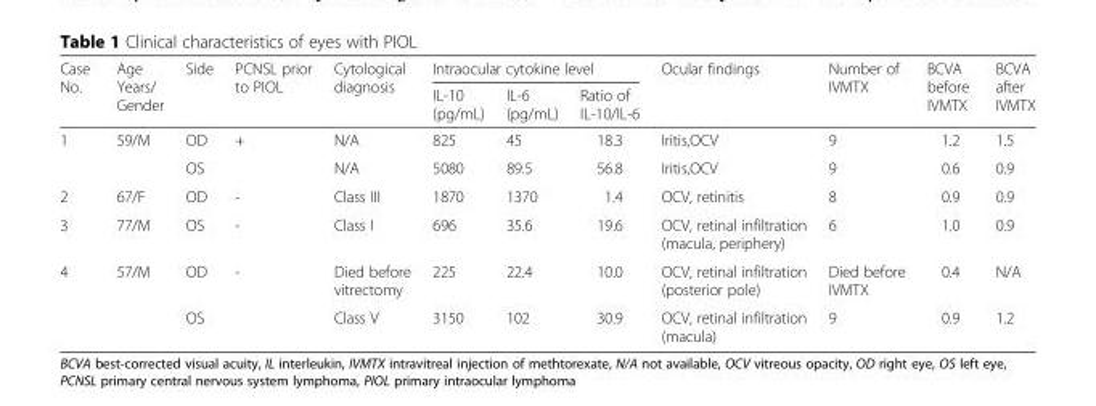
<table><thead><tr><td rowspan="2">Case No.</td><td rowspan="2">Age Years/ Gender</td><td rowspan="2">Side</td><td rowspan="2">PCNSL prior to PIOL</td><td rowspan="2">Cytological diagnosis</td><td colspan="3">Intraocular cytokine level</td><td rowspan="2">Ocular findings</td><td rowspan="2">Number of IVMTX</td><td rowspan="2">BCVA before IVMTX</td><td rowspan="2">BCVA after IVMTX</td></tr><tr><td>IL-10 (pg/mL)</td><td>IL-6 (pg/mL)</td><td>Ratio of IL-10/IL-6</td></tr></thead><tbody><tr><td rowspan="2">1</td><td rowspan="2">59/M</td><td>OD</td><td rowspan="2">+</td><td>N/A</td><td>825</td><td>45</td><td>18.3</td><td>Iritis,OCV</td><td>9</td><td>1.2</td><td>1.5</td></tr><tr><td>OS</td><td>N/A</td><td>5080</td><td>89.5</td><td>56.8</td><td>Iritis,OCV</td><td>9</td><td>0.6</td><td>0.9</td></tr><tr><td>2</td><td>67/F</td><td>OD</td><td>-</td><td>Class III</td><td>1870</td><td>1370</td><td>1.4</td><td>OCV, retinitis</td><td>8</td><td>0.9</td><td>0.9</td></tr><tr><td>3</td><td>77/M</td><td>OS</td><td>-</td><td>Class I</td><td>696</td><td>35.6</td><td>19.6</td><td>OCV, retinal infiltration (macula, periphery)</td><td>6</td><td>1.0</td><td>0.9</td></tr><tr><td rowspan="2">4</td><td rowspan="2">57/M</td><td>OD</td><td rowspan="2">-</td><td>Died before vitrectomy</td><td>225</td><td>22.4</td><td>10.0</td><td>OCV, retinal infiltration (posterior pole)</td><td>Died before IVMTX</td><td>0.4</td><td>N/A</td></tr><tr><td>OS</td><td>Class V</td><td>3150</td><td>102</td><td>30.9</td><td>OCV, retinal infiltration (macula)</td><td>9</td><td>0.9</td><td>1.2</td></tr></tbody></table>